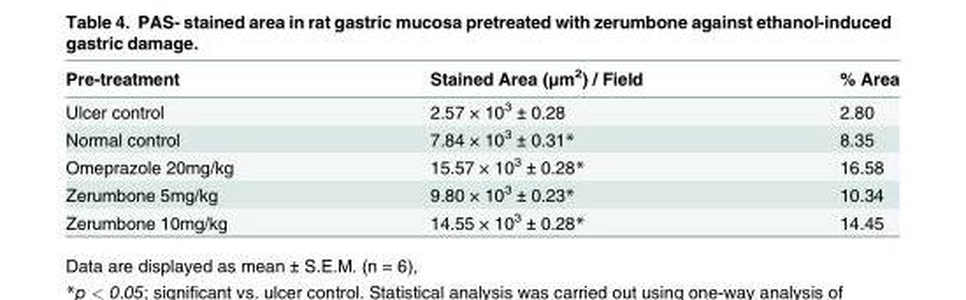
<table><thead><tr><td>Pre-treatment</td><td>Stained Area (μm2) / Field</td><td>% Area</td></tr></thead><tbody><tr><td>Ulcer control</td><td>2.57 × 103 ± 0.28</td><td>2.80</td></tr><tr><td>Normal control</td><td>7.84 × 103 ± 0.31*</td><td>8.35</td></tr><tr><td>Omeprazole 20mg/kg</td><td>15.57 × 103 ± 0.28*</td><td>16.58</td></tr><tr><td>Zerumbone 5mg/kg</td><td>9.80 × 103 ± 0.23*</td><td>10.34</td></tr><tr><td>Zerumbone 10mg/kg</td><td>14.55 × 103 ± 0.28*</td><td>14.45</td></tr></tbody></table>